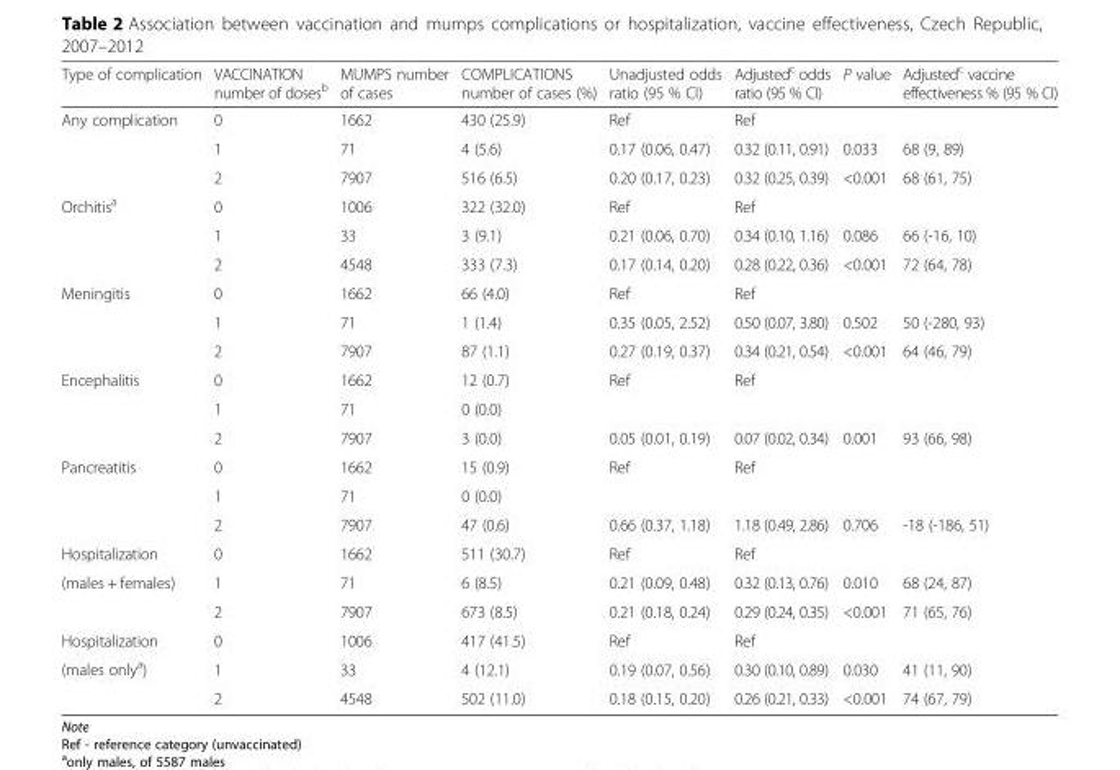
<table><thead><tr><td>Type of complication</td><td>VACCINATION number of doses<sup>b</sup></td><td>MUMPS number of cases</td><td>COMPLICATIONS number of cases (%)</td><td>Unadjusted odds ratio (95 % CI)</td><td>Adjusted<sup>c</sup> odds ratio (95 % CI)</td><td>P value</td><td>Adjusted<sup>c</sup> vaccine effectiveness % (95 % CI)</td></tr></thead><tbody><tr><td rowspan="3">Any complication</td><td>0</td><td>1662</td><td>430 (25.9)</td><td>Ref</td><td>Ref</td><td></td><td></td></tr><tr><td>1</td><td>71</td><td>4 (5.6)</td><td>0.17 (0.06, 0.47)</td><td>0.32 (0.11, 0.91)</td><td>0.033</td><td>68 (9, 89)</td></tr><tr><td>2</td><td>7907</td><td>516 (6.5)</td><td>0.20 (0.17, 0.23)</td><td>0.32 (0.25, 0.39)</td><td>&lt;0.001</td><td>68 (61, 75)</td></tr><tr><td rowspan="3">Orchitis<sup>a</sup></td><td>0</td><td>1006</td><td>322 (32.0)</td><td>Ref</td><td>Ref</td><td></td><td></td></tr><tr><td>1</td><td>33</td><td>3 (9.1)</td><td>0.21 (0.06, 0.70)</td><td>0.34 (0.10, 1.16)</td><td>0.086</td><td>66 (-16, 10)</td></tr><tr><td>2</td><td>4548</td><td>333 (7.3)</td><td>0.17 (0.14, 0.20)</td><td>0.28 (0.22, 0.36)</td><td>&lt;0.001</td><td>72 (64, 78)</td></tr><tr><td rowspan="3">Meningitis</td><td>0</td><td>1662</td><td>66 (4.0)</td><td>Ref</td><td>Ref</td><td></td><td></td></tr><tr><td>1</td><td>71</td><td>1 (1.4)</td><td>0.35 (0.05, 2.52)</td><td>0.50 (0.07, 3.80)</td><td>0.502</td><td>50 (-280, 93)</td></tr><tr><td>2</td><td>7907</td><td>87 (1.1)</td><td>0.27 (0.19, 0.37)</td><td>0.34 (0.21, 0.54)</td><td>&lt;0.001</td><td>64 (46, 79)</td></tr><tr><td rowspan="3">Encephalitis</td><td>0</td><td>1662</td><td>12 (0.7)</td><td>Ref</td><td>Ref</td><td></td><td></td></tr><tr><td>1</td><td>71</td><td>0 (0.0)</td><td></td><td></td><td></td><td></td></tr><tr><td>2</td><td>7907</td><td>3 (0.0)</td><td>0.05 (0.01, 0.19)</td><td>0.07 (0.02, 0.34)</td><td>0.001</td><td>93 (66, 98)</td></tr><tr><td rowspan="3">Pancreatitis</td><td>0</td><td>1662</td><td>15 (0.9)</td><td>Ref</td><td>Ref</td><td></td><td></td></tr><tr><td>1</td><td>71</td><td>0 (0.0)</td><td></td><td></td><td></td><td></td></tr><tr><td>2</td><td>7907</td><td>47 (0.6)</td><td>0.66 (0.37, 1.18)</td><td>1.18 (0.49, 2.86)</td><td>0.706</td><td>-18 (-186, 51)</td></tr><tr><td>Hospitalization</td><td>0</td><td>1662</td><td>511 (30.7)</td><td>Ref</td><td>Ref</td><td></td><td></td></tr><tr><td rowspan="2">(males + females)</td><td>1</td><td>71</td><td>6 (8.5)</td><td>0.21 (0.09, 0.48)</td><td>0.32 (0.13, 0.76)</td><td>0.010</td><td>68 (24, 87)</td></tr><tr><td>2</td><td>7907</td><td>673 (8.5)</td><td>0.21 (0.18, 0.24)</td><td>0.29 (0.24, 0.35)</td><td>&lt;0.001</td><td>71 (65, 76)</td></tr><tr><td>Hospitalization</td><td>0</td><td>1006</td><td>417 (41.5)</td><td>Ref</td><td>Ref</td><td></td><td></td></tr><tr><td rowspan="2">(males only<sup>a</sup>)</td><td>1</td><td>33</td><td>4 (12.1)</td><td>0.19 (0.07, 0.56)</td><td>0.30 (0.10, 0.89)</td><td>0.030</td><td>41 (11, 90)</td></tr><tr><td>2</td><td>4548</td><td>502 (11.0)</td><td>0.18 (0.15, 0.20)</td><td>0.26 (0.21, 0.33)</td><td>&lt;0.001</td><td>74 (67, 79)</td></tr></tbody></table>